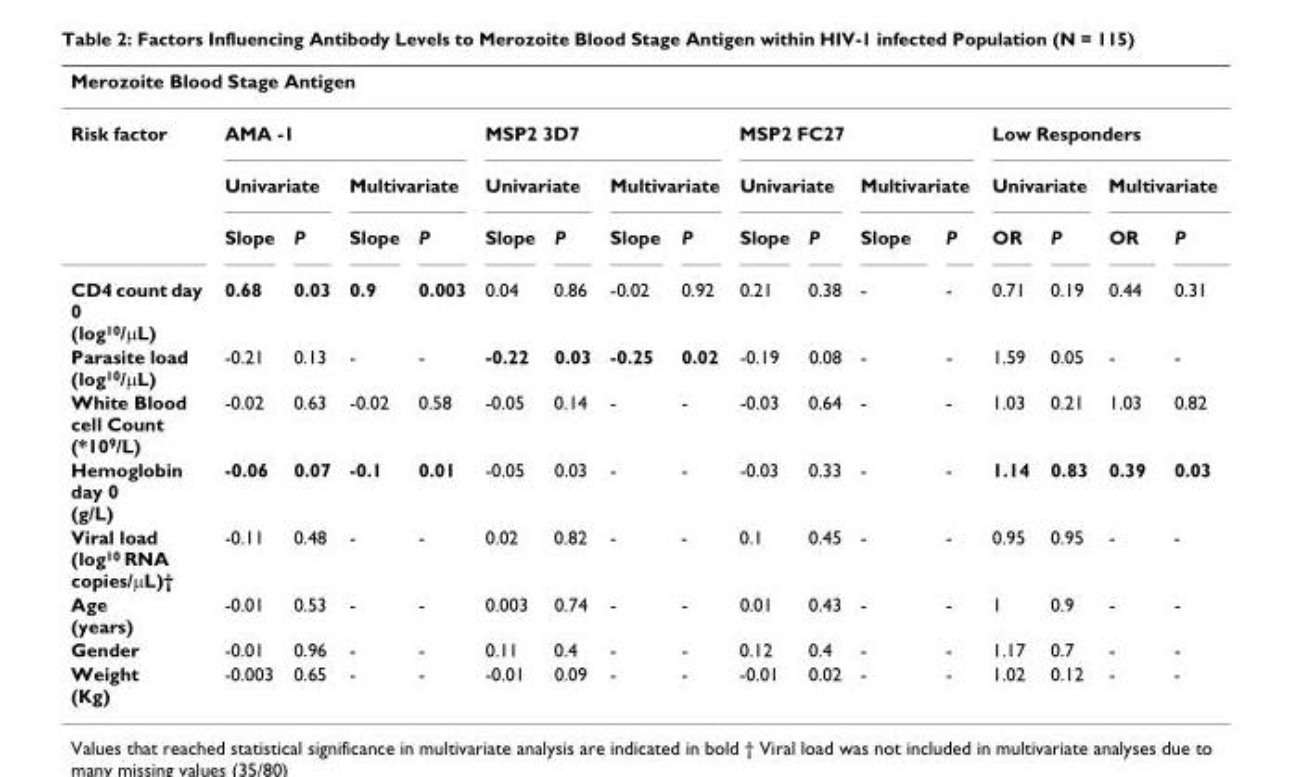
<table><thead><tr><td colspan="17">Merozoite Blood Stage Antigen</td></tr><tr><td rowspan="3">Risk factor</td><td colspan="4">AMA -1</td><td colspan="4">MSP2 3D7</td><td colspan="4">MSP2 FC27</td><td colspan="4">Low Responders</td></tr><tr><td colspan="2">Univariate</td><td colspan="2">Multivariate</td><td colspan="2">Univariate</td><td colspan="2">Multivariate</td><td colspan="2">Univariate</td><td colspan="2">Multivariate</td><td colspan="2">Univariate</td><td colspan="2">Multivariate</td></tr><tr><td>Slope</td><td>P</td><td>Slope</td><td>P</td><td>Slope</td><td>P</td><td>Slope</td><td>P</td><td>Slope</td><td>P</td><td>Slope</td><td>P</td><td>OR</td><td>P</td><td>OR</td><td>P</td></tr></thead><tbody><tr><td>CD4 count day 0 (log<sup>10</sup>/μL)</td><td>0.68</td><td>0.03</td><td>0.9</td><td>0.003</td><td>0.04</td><td>0.86</td><td>-0.02</td><td>0.92</td><td>0.21</td><td>0.38</td><td>-</td><td>-</td><td>0.71</td><td>0.19</td><td>0.44</td><td>0.31</td></tr><tr><td>Parasite load (log<sup>10</sup>/μL)</td><td>-0.21</td><td>0.13</td><td>-</td><td>-</td><td>-0.22</td><td>0.03</td><td>-0.25</td><td>0.02</td><td>-0.19</td><td>0.08</td><td>-</td><td>-</td><td>1.59</td><td>0.05</td><td>-</td><td>-</td></tr><tr><td>White Blood cell Count (*10<sup>9</sup>/L)</td><td>-0.02</td><td>0.63</td><td>-0.02</td><td>0.58</td><td>-0.05</td><td>0.14</td><td>-</td><td>-</td><td>-0.03</td><td>0.64</td><td>-</td><td>-</td><td>1.03</td><td>0.21</td><td>1.03</td><td>0.82</td></tr><tr><td>Hemoglobin day 0 (g/L)</td><td>-0.06</td><td>0.07</td><td>-0.1</td><td>0.01</td><td>-0.05</td><td>0.03</td><td>-</td><td>-</td><td>-0.03</td><td>0.33</td><td>-</td><td>-</td><td>1.14</td><td>0.83</td><td>0.39</td><td>0.03</td></tr><tr><td>Viral load (log<sup>10</sup> RNA copies/μL)†</td><td>-0.11</td><td>0.48</td><td>-</td><td>-</td><td>0.02</td><td>0.82</td><td>-</td><td>-</td><td>0.1</td><td>0.45</td><td>-</td><td>-</td><td>0.95</td><td>0.95</td><td>-</td><td>-</td></tr><tr><td>Age (years)</td><td>-0.01</td><td>0.53</td><td>-</td><td>-</td><td>0.003</td><td>0.74</td><td>-</td><td>-</td><td>0.01</td><td>0.43</td><td>-</td><td>-</td><td>1</td><td>0.9</td><td>-</td><td>-</td></tr><tr><td>Gender</td><td>-0.01</td><td>0.96</td><td>-</td><td>-</td><td>0.11</td><td>0.4</td><td>-</td><td>-</td><td>0.12</td><td>0.4</td><td>-</td><td>-</td><td>1.17</td><td>0.7</td><td>-</td><td>-</td></tr><tr><td>Weight (Kg)</td><td>-0.003</td><td>0.65</td><td>-</td><td>-</td><td>-0.01</td><td>0.09</td><td>-</td><td>-</td><td>-0.01</td><td>0.02</td><td>-</td><td>-</td><td>1.02</td><td>0.12</td><td>-</td><td>-</td></tr></tbody></table>